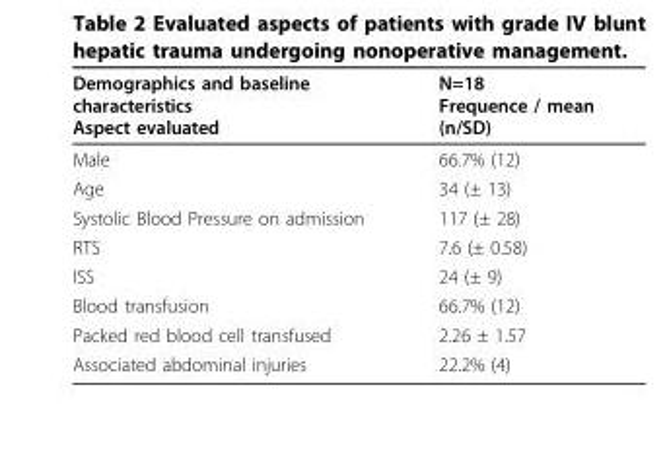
<table><tbody><tr><td>Demographics and baseline characteristics Aspect evaluated</td><td>N=18 Frequence / mean (n/SD)</td></tr><tr><td>Male</td><td>66.7% (12)</td></tr><tr><td>Age</td><td>34 (± 13)</td></tr><tr><td>Systolic Blood Pressure on admission</td><td>117 (± 28)</td></tr><tr><td>RTS</td><td>7.6 (± 0.58)</td></tr><tr><td>ISS</td><td>24 (± 9)</td></tr><tr><td>Blood transfusion</td><td>66.7% (12)</td></tr><tr><td>Packed red blood cell transfused</td><td>2.26 ± 1.57</td></tr><tr><td>Associated abdominal injuries</td><td>22.2% (4)</td></tr></tbody></table>